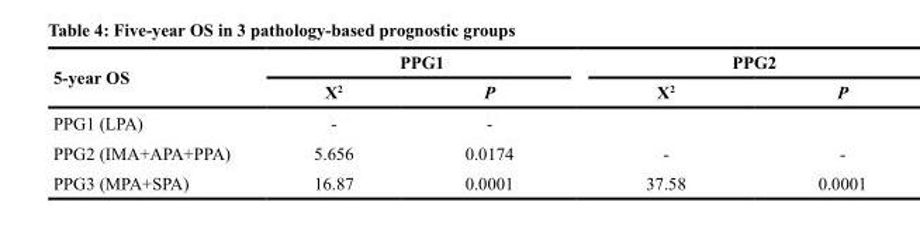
<table><thead><tr><td rowspan="2">5-year OS</td><td colspan="2">PPG1</td><td colspan="2">PPG2</td></tr><tr><td>X<sup>2</sup></td><td>P</td><td>X<sup>2</sup></td><td>P</td></tr></thead><tbody><tr><td>PPG1 (LPA)</td><td>-</td><td>-</td><td></td><td></td></tr><tr><td>PPG2 (IMA+APA+PPA)</td><td>5.656</td><td>0.0174</td><td>-</td><td>-</td></tr><tr><td>PPG3 (MPA+SPA)</td><td>16.87</td><td>0.0001</td><td>37.58</td><td>0.0001</td></tr></tbody></table>